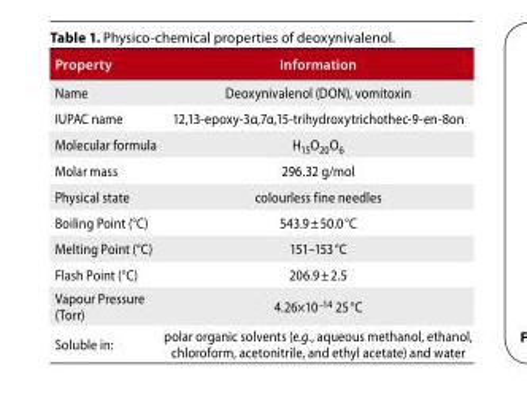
<table><thead><tr><td>Property</td><td>information</td></tr></thead><tbody><tr><td>Name</td><td>Deoxynivalenol (DON), vomitoxin</td></tr><tr><td>IUPAC name</td><td>12,13-epoxy-3α,7α,15-trihydroxytrichothec-9-en-8on</td></tr><tr><td>Molecular formula</td><td>H<sub>15</sub>O<sub>20</sub>O<sub>6</sub></td></tr><tr><td>Molar mass</td><td>296.32 g/mol</td></tr><tr><td>Physical state</td><td>colourless fine needles</td></tr><tr><td>Boiling Point (°C)</td><td>543.9 ± 50.0 °C</td></tr><tr><td>Melting Point (°C)</td><td>151–153 °C</td></tr><tr><td>Flash Point (°C)</td><td>206.9 ± 2.5</td></tr><tr><td>Vapour Pressure (Torr)</td><td>4.26×10<sup>–14</sup> 25 °C</td></tr><tr><td>Soluble in:</td><td>polar organic solvents (e.g., aqueous methanol, ethanol, chloroform, acetonitrile, and ethyl acetate) and water</td></tr></tbody></table>